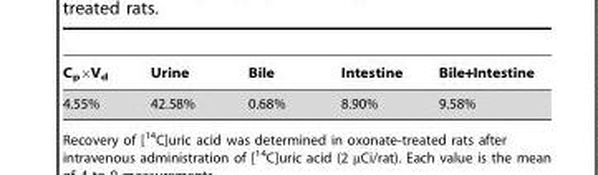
<table><thead><tr><td>C<sub>p</sub>×V<sub>d</sub></td><td>Urine</td><td>Bile</td><td>Intestine</td><td>Bile+Intestine</td></tr></thead><tbody><tr><td>4.55%</td><td>42.58%</td><td>0.68%</td><td>8.90%</td><td>9.58%</td></tr></tbody></table>